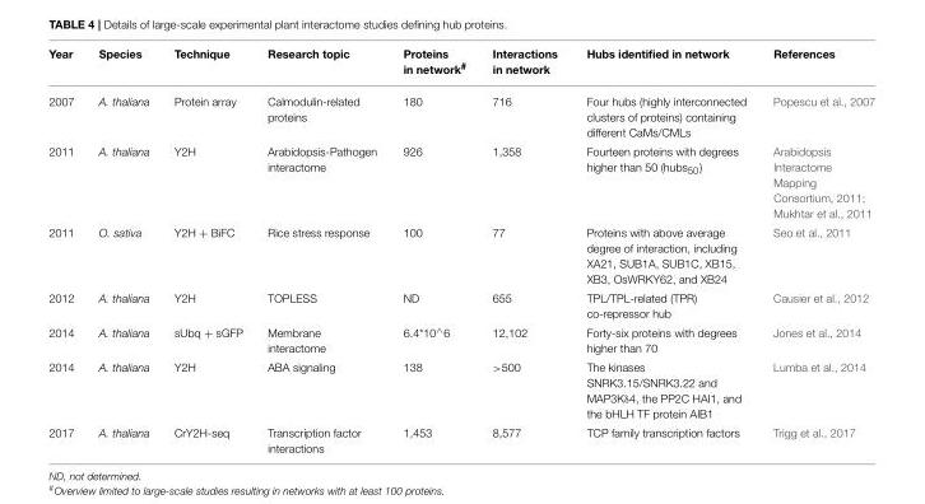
<table><thead><tr><td>Year</td><td>Species</td><td>Technique</td><td>Research topic</td><td>Proteins in network<sup>#</sup></td><td>Interactions in network</td><td>Hubs identified in network</td><td>References</td></tr></thead><tbody><tr><td>2007</td><td>A. thaliana</td><td>Protein array</td><td>Calmodulin-related proteins</td><td>180</td><td>716</td><td>Four hubs (highly interconnected clusters of proteins) containing different CaMs/CMLs</td><td>Popescu et al., 2007</td></tr><tr><td>2011</td><td>A. thaliana</td><td>Y2H</td><td>Arabidopsis-Pathogen interactome</td><td>926</td><td>1,358</td><td>Fourteen proteins with degrees higher than 50 (hubs<sub>50</sub>)</td><td>Arabidopsis Interactome Mapping Consortium, 2011; Mukhtar et al., 2011</td></tr><tr><td>2011</td><td>O. sativa</td><td>Y2H + BiFC</td><td>Rice stress response</td><td>100</td><td>77</td><td>Proteins with above average degree of interaction, including XA21, SUB1A, SUB1C, XB15, XB3, OsWRKY62, and XB24</td><td>Seo et al., 2011</td></tr><tr><td>2012</td><td>A. thaliana</td><td>Y2H</td><td>TOPLESS</td><td>ND</td><td>655</td><td>TPL/TPL-related (TPR) co-repressor hub</td><td>Causier et al., 2012</td></tr><tr><td>2014</td><td>A. thaliana</td><td>sUbq + sGFP</td><td>Membrane interactome</td><td>6.4*10<sup>∧</sup>6</td><td>12,102</td><td>Forty-six proteins with degrees higher than 70</td><td>Jones et al., 2014</td></tr><tr><td>2014</td><td>A. thaliana</td><td>Y2H</td><td>ABA signaling</td><td>138</td><td>&gt;500</td><td>The kinases SNRK3.15/SNRK3.22 and MAP3Kδ4, the PP2C HAI1, and the bHLH TF protein AIB1</td><td>Lumba et al., 2014</td></tr><tr><td>2017</td><td>A. thaliana</td><td>CrY2H-seq</td><td>Transcription factor interactions</td><td>1,453</td><td>8,577</td><td>TCP family transcription factors</td><td>Trigg et al., 2017</td></tr></tbody></table>